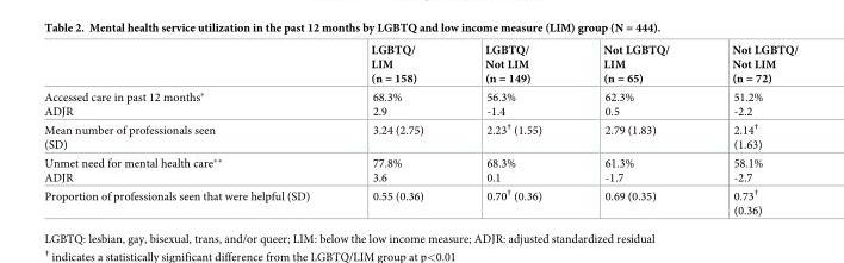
<table><thead><tr><td></td><td>LGBTQ/ LIM (n = 158)</td><td>LGBTQ/ Not LIM (n = 149)</td><td>Not LGBTQ/ LIM (n = 65)</td><td>Not LGBTQ/ Not LIM (n = 72)</td></tr></thead><tbody><tr><td>Accessed care in past 12 months* ADJR</td><td>68.3% 2.9</td><td>56.3% -1.4</td><td>62.3% 0.5</td><td>51.2% -2.2</td></tr><tr><td>Mean number of professionals seen (SD)</td><td>3.24 (2.75)</td><td>2.23<sup>†</sup> (1.55)</td><td>2.79 (1.83)</td><td>2.14<sup>†</sup> (1.63)</td></tr><tr><td>Unmet need for mental health care** ADJR</td><td>77.8% 3.6</td><td>68.3% 0.1</td><td>61.3% -1.7</td><td>58.1% -2.7</td></tr><tr><td>Proportion of professionals seen that were helpful (SD)</td><td>0.55 (0.36)</td><td>0.70<sup>†</sup> (0.36)</td><td>0.69 (0.35)</td><td>0.73<sup>†</sup> (0.36)</td></tr></tbody></table>